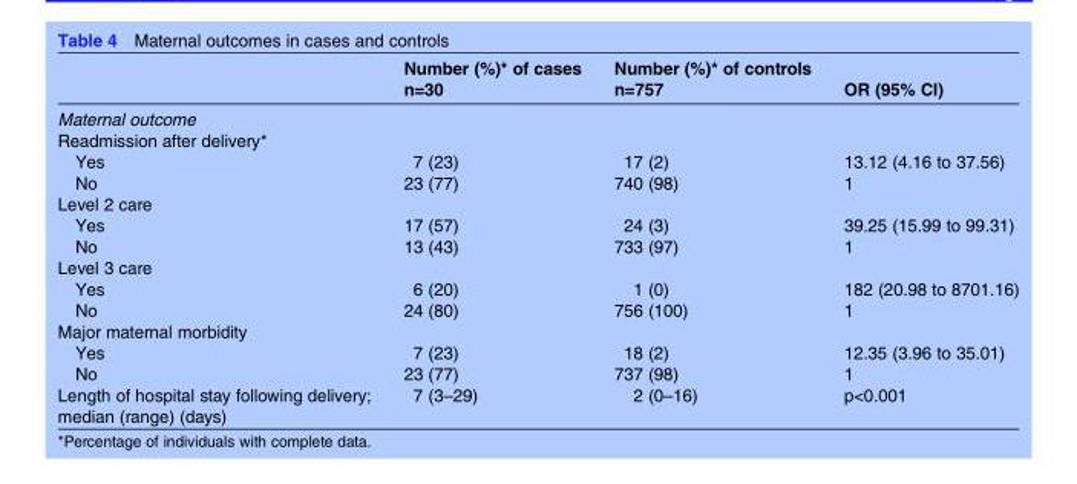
<table><thead><tr><td rowspan="2"></td><td rowspan="2">Number (%)* of cases n=30</td><td rowspan="2">Number (%)* of controls n=757</td><td rowspan="2">OR (95% CI)</td></tr><tr></tr></thead><tbody><tr><td colspan="4">Maternal outcome</td></tr><tr><td colspan="4">Readmission after delivery*</td></tr><tr><td>Yes</td><td>7 (23)</td><td>17 (2)</td><td>13.12 (4.16 to 37.56)</td></tr><tr><td>No</td><td>23 (77)</td><td>740 (98)</td><td>1</td></tr><tr><td colspan="4">Level 2 care</td></tr><tr><td>Yes</td><td>17 (57)</td><td>24 (3)</td><td>39.25 (15.99 to 99.31)</td></tr><tr><td>No</td><td>13 (43)</td><td>733 (97)</td><td>1</td></tr><tr><td colspan="4">Level 3 care</td></tr><tr><td>Yes</td><td>6 (20)</td><td>1 (0)</td><td>182 (20.98 to 8701.16)</td></tr><tr><td>No</td><td>24 (80)</td><td>756 (100)</td><td>1</td></tr><tr><td colspan="4">Major maternal morbidity</td></tr><tr><td>Yes</td><td>7 (23)</td><td>18 (2)</td><td>12.35 (3.96 to 35.01)</td></tr><tr><td>No</td><td>23 (77)</td><td>737 (98)</td><td>1</td></tr><tr><td>Length of hospital stay following delivery; median (range) (days)</td><td>7 (3–29)</td><td>2 (0–16)</td><td>p&lt;0.001</td></tr></tbody></table>